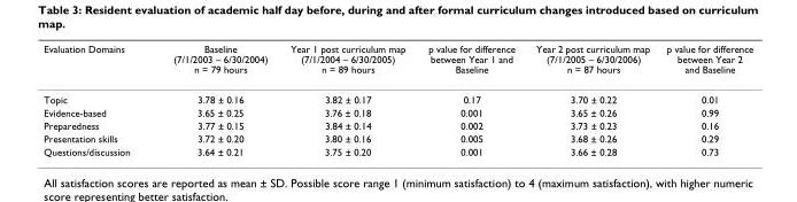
<table><thead><tr><td>Evaluation Domains</td><td>Baseline (7/1/2003 – 6/30/2004) n = 79 hours</td><td>Year 1 post curriculum map (7/1/2004 – 6/30/2005) n = 89 hours</td><td>p value for difference between Year 1 and Baseline</td><td>Year 2 post curriculum map (7/1/2005 – 6/30/2006) n = 87 hours</td><td>p value for difference between Year 2 and Baseline</td></tr></thead><tbody><tr><td>Topic</td><td>3.78 ± 0.16</td><td>3.82 ± 0.17</td><td>0.17</td><td>3.70 ± 0.22</td><td>0.01</td></tr><tr><td>Evidence-based</td><td>3.65 ± 0.25</td><td>3.76 ± 0.18</td><td>0.001</td><td>3.65 ± 0.26</td><td>0.99</td></tr><tr><td>Preparedness</td><td>3.77 ± 0.15</td><td>3.84 ± 0.14</td><td>0.002</td><td>3.73 ± 0.23</td><td>0.16</td></tr><tr><td>Presentation skills</td><td>3.72 ± 0.20</td><td>3.80 ± 0.16</td><td>0.005</td><td>3.68 ± 0.26</td><td>0.29</td></tr><tr><td>Questions/discussion</td><td>3.64 ± 0.21</td><td>3.75 ± 0.20</td><td>0.001</td><td>3.66 ± 0.28</td><td>0.73</td></tr></tbody></table>